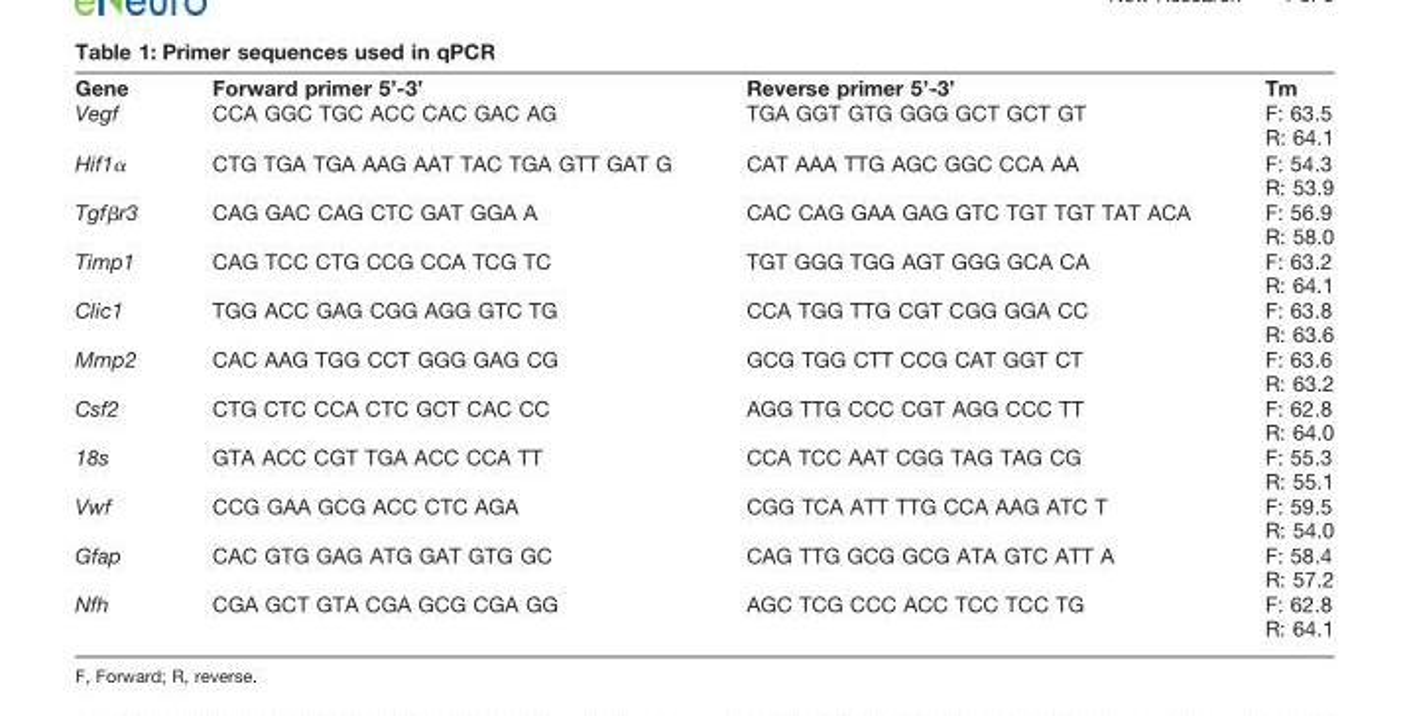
<table><thead><tr><td>Gene</td><td>Forward primer 5’-3’</td><td>Reverse primer 5’-3’</td><td>Tm</td></tr></thead><tbody><tr><td>Vegf</td><td>CCA GGC TGC ACC CAC GAC AG</td><td>TGA GGT GTG GGG GCT GCT GT</td><td>F: 63.5 R: 64.1</td></tr><tr><td>Hif1α</td><td>CTG TGA TGA AAG AAT TAC TGA GTT GAT G</td><td>CAT AAA TTG AGC GGC CCA AA</td><td>F: 54.3 R: 53.9</td></tr><tr><td>Tgfβr3</td><td>CAG GAC CAG CTC GAT GGA A</td><td>CAC CAG GAA GAG GTC TGT TGT TAT ACA</td><td>F: 56.9 R: 58.0</td></tr><tr><td>Timp1</td><td>CAG TCC CTG CCG CCA TCG TC</td><td>TGT GGG TGG AGT GGG GCA CA</td><td>F: 63.2 R: 64.1</td></tr><tr><td>Clic1</td><td>TGG ACC GAG CGG AGG GTC TG</td><td>CCA TGG TTG CGT CGG GGA CC</td><td>F: 63.8 R: 63.6</td></tr><tr><td>Mmp2</td><td>CAC AAG TGG CCT GGG GAG CG</td><td>GCG TGG CTT CCG CAT GGT CT</td><td>F: 63.6 R: 63.2</td></tr><tr><td>Csf2</td><td>CTG CTC CCA CTC GCT CAC CC</td><td>AGG TTG CCC CGT AGG CCC TT</td><td>F: 62.8 R: 64.0</td></tr><tr><td>18s</td><td>GTA ACC CGT TGA ACC CCA TT</td><td>CCA TCC AAT CGG TAG TAG CG</td><td>F: 55.3 R: 55.1</td></tr><tr><td>Vwf</td><td>CCG GAA GCG ACC CTC AGA</td><td>CGG TCA ATT TTG CCA AAG ATC T</td><td>F: 59.5 R: 54.0</td></tr><tr><td>Gfap</td><td>CAC GTG GAG ATG GAT GTG GC</td><td>CAG TTG GCG GCG ATA GTC ATT A</td><td>F: 58.4 R: 57.2</td></tr><tr><td>Nfh</td><td>CGA GCT GTA CGA GCG CGA GG</td><td>AGC TCG CCC ACC TCC TCC TG</td><td>F: 62.8 R: 64.1</td></tr></tbody></table>